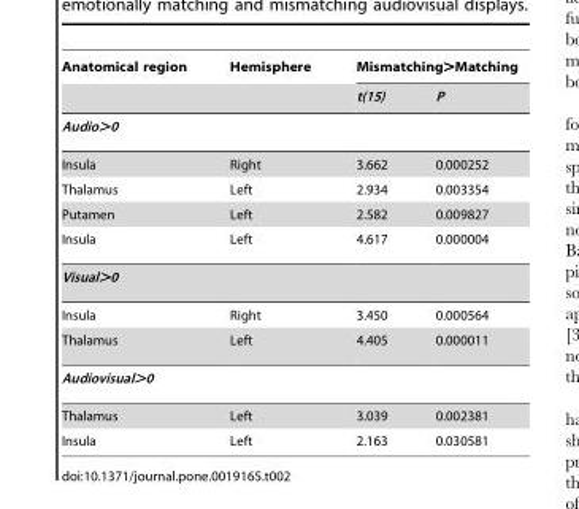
<table><thead><tr><td rowspan="2">Anatomical region</td><td rowspan="2">Hemisphere</td><td colspan="2">Mismatching&gt;Matching</td></tr><tr><td>t(15)</td><td>P</td></tr></thead><tbody><tr><td colspan="4">Audio&gt;0</td></tr><tr><td>Insula</td><td>Right</td><td>3.662</td><td>0.000252</td></tr><tr><td>Thalamus</td><td>Left</td><td>2.934</td><td>0.003354</td></tr><tr><td>Putamen</td><td>Left</td><td>2.582</td><td>0.009827</td></tr><tr><td>Insula</td><td>Left</td><td>4.617</td><td>0.000004</td></tr><tr><td colspan="4">Visual&gt;0</td></tr><tr><td>Insula</td><td>Right</td><td>3.450</td><td>0.000564</td></tr><tr><td>Thalamus</td><td>Left</td><td>4.405</td><td>0.000011</td></tr><tr><td colspan="4">Audiovisual&gt;0</td></tr><tr><td>Thalamus</td><td>Left</td><td>3.039</td><td>0.002381</td></tr><tr><td>Insula</td><td>Left</td><td>2.163</td><td>0.030581</td></tr></tbody></table>